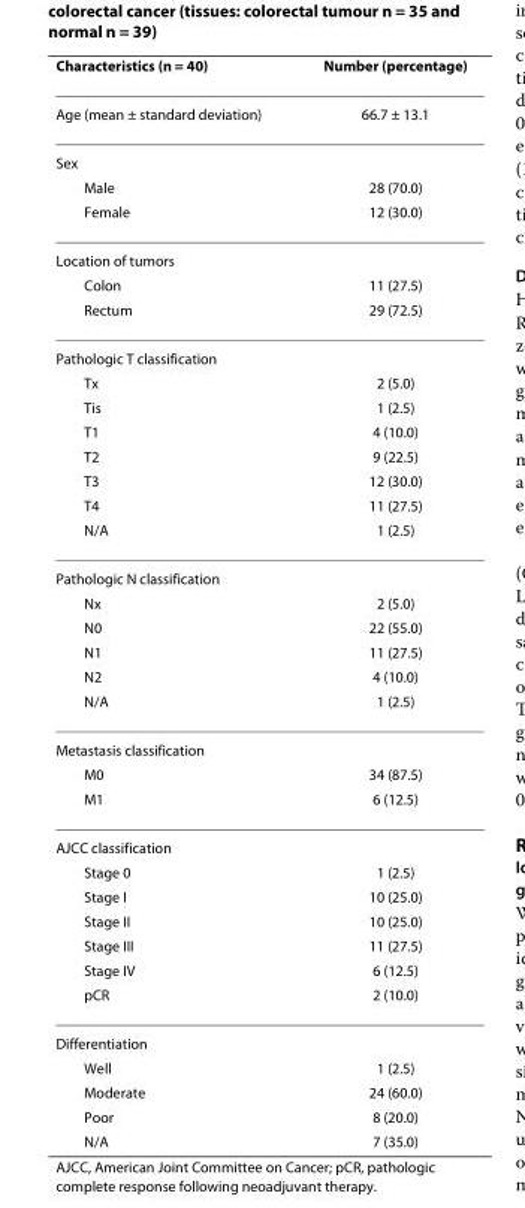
<table><thead><tr><td>Characteristics (n = 40)</td><td>Number (percentage)</td></tr></thead><tbody><tr><td>Age (mean ± standard deviation)</td><td>66.7 ± 13.1</td></tr><tr><td colspan="2">Sex</td></tr><tr><td>Male</td><td>28 (70.0)</td></tr><tr><td>Female</td><td>12 (30.0)</td></tr><tr><td colspan="2">Location of tumors</td></tr><tr><td>Colon</td><td>11 (27.5)</td></tr><tr><td>Rectum</td><td>29 (72.5)</td></tr><tr><td colspan="2">Pathologic T classification</td></tr><tr><td>Tx</td><td>2 (5.0)</td></tr><tr><td>Tis</td><td>1 (2.5)</td></tr><tr><td>T1</td><td>4 (10.0)</td></tr><tr><td>T2</td><td>9 (22.5)</td></tr><tr><td>T3</td><td>12 (30.0)</td></tr><tr><td>T4</td><td>11 (27.5)</td></tr><tr><td>N/A</td><td>1 (2.5)</td></tr><tr><td colspan="2">Pathologic N classification</td></tr><tr><td>Nx</td><td>2 (5.0)</td></tr><tr><td>N0</td><td>22 (55.0)</td></tr><tr><td>N1</td><td>11 (27.5)</td></tr><tr><td>N2</td><td>4 (10.0)</td></tr><tr><td>N/A</td><td>1 (2.5)</td></tr><tr><td colspan="2">Metastasis classification</td></tr><tr><td>M0</td><td>34 (87.5)</td></tr><tr><td>M1</td><td>6 (12.5)</td></tr><tr><td colspan="2">AJCC classification</td></tr><tr><td>Stage 0</td><td>1 (2.5)</td></tr><tr><td>Stage I</td><td>10 (25.0)</td></tr><tr><td>Stage II</td><td>10 (25.0)</td></tr><tr><td>Stage III</td><td>11 (27.5)</td></tr><tr><td>Stage IV</td><td>6 (12.5)</td></tr><tr><td>pCR</td><td>2 (10.0)</td></tr><tr><td colspan="2">Differentiation</td></tr><tr><td>Well</td><td>1 (2.5)</td></tr><tr><td>Moderate</td><td>24 (60.0)</td></tr><tr><td>Poor</td><td>8 (20.0)</td></tr><tr><td>N/A</td><td>7 (35.0)</td></tr></tbody></table>